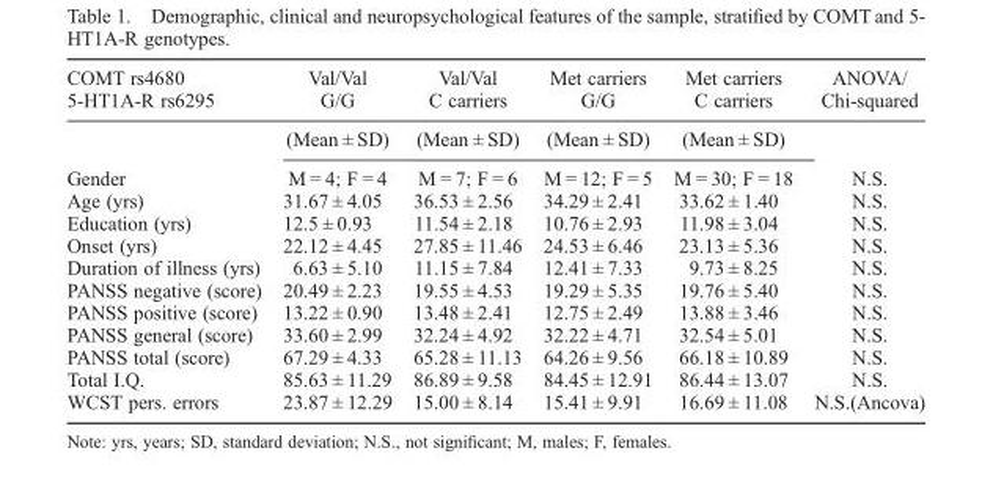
<table><thead><tr><td rowspan="2">COMT rs4680 5-HT1A-R rs6295</td><td rowspan="2">Val/Val G/G</td><td rowspan="2">Val/Val C carriers</td><td rowspan="2">Met carriers G/G</td><td rowspan="2">Met carriers C carriers</td><td rowspan="2">ANOVA/ Chi-squared</td></tr><tr></tr></thead><tbody><tr><td></td><td>(Mean ± SD)</td><td>(Mean ± SD)</td><td>(Mean ± SD)</td><td>(Mean ± SD)</td><td></td></tr><tr><td>Gender</td><td>M = 4; F = 4</td><td>M = 7; F = 6</td><td>M = 12; F = 5</td><td>M = 30; F = 18</td><td>N.S.</td></tr><tr><td>Age (yrs)</td><td>31.67 ± 4.05</td><td>36.53 ± 2.56</td><td>34.29 ± 2.41</td><td>33.62 ± 1.40</td><td>N.S.</td></tr><tr><td>Education (yrs)</td><td>12.5 ± 0.93</td><td>11.54 ± 2.18</td><td>10.76 ± 2.93</td><td>11.98 ± 3.04</td><td>N.S.</td></tr><tr><td>Onset (yrs)</td><td>22.12 ± 4.45</td><td>27.85 ± 11.46</td><td>24.53 ± 6.46</td><td>23.13 ± 5.36</td><td>N.S.</td></tr><tr><td>Duration of illness (yrs)</td><td>6.63 ± 5.10</td><td>11.15 ± 7.84</td><td>12.41 ± 7.33</td><td>9.73 ± 8.25</td><td>N.S.</td></tr><tr><td>PANSS negative (score)</td><td>20.49 ± 2.23</td><td>19.55 ± 4.53</td><td>19.29 ± 5.35</td><td>19.76 ± 5.40</td><td>N.S.</td></tr><tr><td>PANSS positive (score)</td><td>13.22 ± 0.90</td><td>13.48 ± 2.41</td><td>12.75 ± 2.49</td><td>13.88 ± 3.46</td><td>N.S.</td></tr><tr><td>PANSS general (score)</td><td>33.60 ± 2.99</td><td>32.24 ± 4.92</td><td>32.22 ± 4.71</td><td>32.54 ± 5.01</td><td>N.S.</td></tr><tr><td>PANSS total (score)</td><td>67.29 ± 4.33</td><td>65.28 ± 11.13</td><td>64.26 ± 9.56</td><td>66.18 ± 10.89</td><td>N.S.</td></tr><tr><td>Total I.Q.</td><td>85.63 ± 11.29</td><td>86.89 ± 9.58</td><td>84.45 ± 12.91</td><td>86.44 ± 13.07</td><td>N.S.</td></tr><tr><td>WCST pers. errors</td><td>23.87 ± 12.29</td><td>15.00 ± 8.14</td><td>15.41 ± 9.91</td><td>16.69 ± 11.08</td><td>N.S.(Ancova)</td></tr></tbody></table>